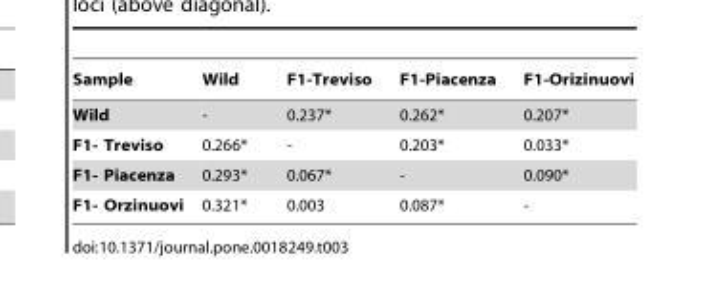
<table><thead><tr><td>Sample</td><td>Wild</td><td>F1-Treviso</td><td>F1-Piacenza</td><td>F1-Orizinuovi</td></tr></thead><tbody><tr><td>Wild</td><td>-</td><td>0.237*</td><td>0.262*</td><td>0.207*</td></tr><tr><td>F1- Treviso</td><td>0.266*</td><td>-</td><td>0.203*</td><td>0.033*</td></tr><tr><td>F1- Piacenza</td><td>0.293*</td><td>0.067*</td><td>-</td><td>0.090*</td></tr><tr><td>F1- Orzinuovi</td><td>0.321*</td><td>0.003</td><td>0.087*</td><td>-</td></tr></tbody></table>